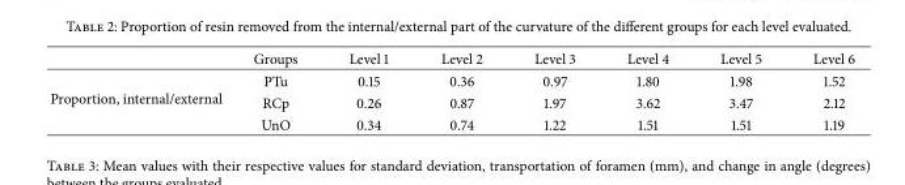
<table><thead><tr><td></td><td>Groups</td><td>Level 1</td><td>Level 2</td><td>Level 3</td><td>Level 4</td><td>Level 5</td><td>Level 6</td></tr></thead><tbody><tr><td rowspan="3">Proportion, internal/external</td><td>PTu</td><td>0.15</td><td>0.36</td><td>0.97</td><td>1.80</td><td>1.98</td><td>1.52</td></tr><tr><td>RCp</td><td>0.26</td><td>0.87</td><td>1.97</td><td>3.62</td><td>3.47</td><td>2.12</td></tr><tr><td>UnO</td><td>0.34</td><td>0.74</td><td>1.22</td><td>1.51</td><td>1.51</td><td>1.19</td></tr></tbody></table>